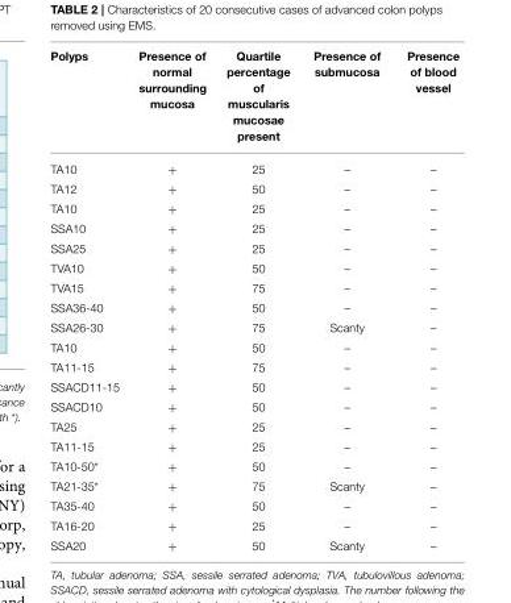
<table><thead><tr><td>Polyps</td><td>Presence of normal surrounding mucosa</td><td>Quartile percentage of muscularis mucosae present</td><td>Presence of submucosa</td><td>Presence of blood vessel</td></tr></thead><tbody><tr><td>TA10</td><td>+</td><td>25</td><td>–</td><td>–</td></tr><tr><td>TA12</td><td>+</td><td>50</td><td>–</td><td>–</td></tr><tr><td>TA10</td><td>+</td><td>25</td><td>–</td><td>–</td></tr><tr><td>SSA10</td><td>+</td><td>25</td><td>–</td><td>–</td></tr><tr><td>SSA25</td><td>+</td><td>25</td><td>–</td><td>–</td></tr><tr><td>TVA10</td><td>+</td><td>50</td><td>–</td><td>–</td></tr><tr><td>TVA15</td><td>+</td><td>75</td><td>–</td><td>–</td></tr><tr><td>SSA36-40</td><td>+</td><td>50</td><td>–</td><td>–</td></tr><tr><td>SSA26-30</td><td>+</td><td>75</td><td>Scanty</td><td>–</td></tr><tr><td>TA10</td><td>+</td><td>50</td><td>–</td><td>–</td></tr><tr><td>TA11-15</td><td>+</td><td>75</td><td>–</td><td>–</td></tr><tr><td>SSACD11-15</td><td>+</td><td>50</td><td>–</td><td>–</td></tr><tr><td>SSACD10</td><td>+</td><td>50</td><td>–</td><td>–</td></tr><tr><td>TA25</td><td>+</td><td>25</td><td>–</td><td>–</td></tr><tr><td>TA11-15</td><td>+</td><td>25</td><td>–</td><td>–</td></tr><tr><td>TA10-50*</td><td>+</td><td>50</td><td>–</td><td>–</td></tr><tr><td>TA21-35*</td><td>+</td><td>75</td><td>Scanty</td><td>–</td></tr><tr><td>TA35-40</td><td>+</td><td>50</td><td>–</td><td>–</td></tr><tr><td>TA16-20</td><td>+</td><td>25</td><td>–</td><td>–</td></tr><tr><td>SSA20</td><td>+</td><td>50</td><td>Scanty</td><td>–</td></tr></tbody></table>